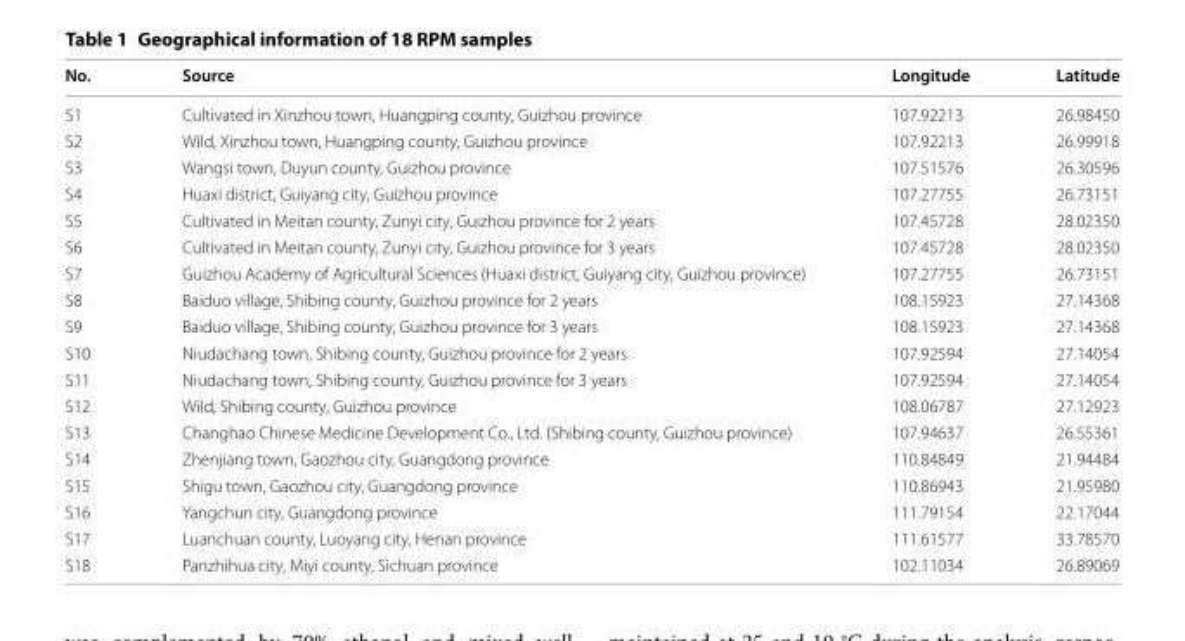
<table><thead><tr><td>No.</td><td>Source</td><td>Longitude</td><td>Latitude</td></tr></thead><tbody><tr><td>S1</td><td>Cultivated in Xinzhou town, Huangping county, Guizhou province</td><td>107.92213</td><td>26.98450</td></tr><tr><td>S2</td><td>Wild, Xinzhou town, Huangping county, Guizhou province</td><td>107.92213</td><td>26.99918</td></tr><tr><td>S3</td><td>Wangsi town, Duyun county, Guizhou province</td><td>107.51576</td><td>26.30596</td></tr><tr><td>S4</td><td>Huaxi district, Guiyang city, Guizhou province</td><td>107.27755</td><td>26.73151</td></tr><tr><td>S5</td><td>Cultivated in Meitan county, Zunyi city, Guizhou province for 2 years</td><td>107.45728</td><td>28.02350</td></tr><tr><td>S6</td><td>Cultivated in Meitan county, Zunyi city, Guizhou province for 3 years</td><td>107.45728</td><td>28.02350</td></tr><tr><td>S7</td><td>Guizhou Academy of Agricultural Sciences (Huaxi district, Guiyang city, Guizhou province)</td><td>107.27755</td><td>26.73151</td></tr><tr><td>S8</td><td>Baiduo village, Shibing county, Guizhou province for 2 years</td><td>108.15923</td><td>27.14368</td></tr><tr><td>S9</td><td>Baiduo village, Shibing county, Guizhou province for 3 years</td><td>108.15923</td><td>27.14368</td></tr><tr><td>S10</td><td>Niudachang town, Shibing county, Guizhou province for 2 years</td><td>107.92594</td><td>27.14054</td></tr><tr><td>S11</td><td>Niudachang town, Shibing county, Guizhou province for 3 years</td><td>107.92594</td><td>27.14054</td></tr><tr><td>S12</td><td>Wild, Shibing county, Guizhou province</td><td>108.06787</td><td>27.12923</td></tr><tr><td>S13</td><td>Changhao Chinese Medicine Development Co., Ltd. (Shibing county, Guizhou province)</td><td>107.94637</td><td>26.55361</td></tr><tr><td>S14</td><td>Zhenjiang town, Gaozhou city, Guangdong province</td><td>110.84849</td><td>21.94484</td></tr><tr><td>S15</td><td>Shigu town, Gaozhou city, Guangdong province</td><td>110.86943</td><td>21.95980</td></tr><tr><td>S16</td><td>Yangchun city, Guangdong province</td><td>111.79154</td><td>22.17044</td></tr><tr><td>S17</td><td>Luanchuan county, Luoyang city, Henan province</td><td>111.61577</td><td>33.78570</td></tr><tr><td>S18</td><td>Panzhihua city, Miyi county, Sichuan province</td><td>102.11034</td><td>26.89069</td></tr></tbody></table>